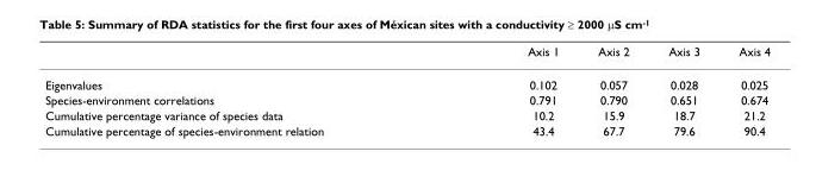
<table><thead><tr><td></td><td>Axis 1</td><td>Axis 2</td><td>Axis 3</td><td>Axis 4</td></tr></thead><tbody><tr><td>Eigenvalues</td><td>0.102</td><td>0.057</td><td>0.028</td><td>0.025</td></tr><tr><td>Species-environment correlations</td><td>0.791</td><td>0.790</td><td>0.651</td><td>0.674</td></tr><tr><td>Cumulative percentage variance of species data</td><td>10.2</td><td>15.9</td><td>18.7</td><td>21.2</td></tr><tr><td>Cumulative percentage of species-environment relation</td><td>43.4</td><td>67.7</td><td>79.6</td><td>90.4</td></tr></tbody></table>